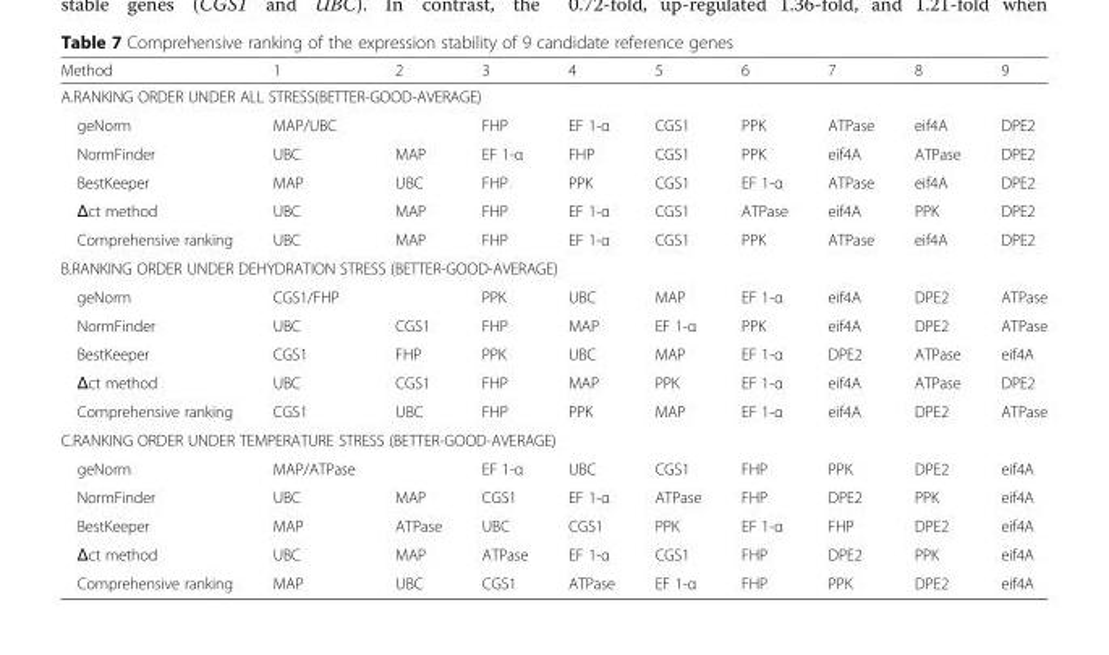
<table><thead><tr><td>Method</td><td>1</td><td>2</td><td>3</td><td>4</td><td>5</td><td>6</td><td>7</td><td>8</td><td>9</td></tr></thead><tbody><tr><td colspan="10">A.RANKING ORDER UNDER ALL STRESS(BETTER-GOOD-AVERAGE)</td></tr><tr><td>geNorm</td><td>MAP/UBC</td><td></td><td>FHP</td><td>EF 1-α</td><td>CGS1</td><td>PPK</td><td>ATPase</td><td>eif4A</td><td>DPE2</td></tr><tr><td>NormFinder</td><td>UBC</td><td>MAP</td><td>EF 1-α</td><td>FHP</td><td>CGS1</td><td>PPK</td><td>eif4A</td><td>ATPase</td><td>DPE2</td></tr><tr><td>BestKeeper</td><td>MAP</td><td>UBC</td><td>FHP</td><td>PPK</td><td>CGS1</td><td>EF 1-α</td><td>ATPase</td><td>eif4A</td><td>DPE2</td></tr><tr><td>Δct method</td><td>UBC</td><td>MAP</td><td>FHP</td><td>EF 1-α</td><td>CGS1</td><td>ATPase</td><td>eif4A</td><td>PPK</td><td>DPE2</td></tr><tr><td>Comprehensive ranking</td><td>UBC</td><td>MAP</td><td>FHP</td><td>EF 1-α</td><td>CGS1</td><td>PPK</td><td>ATPase</td><td>eif4A</td><td>DPE2</td></tr><tr><td colspan="10">B.RANKING ORDER UNDER DEHYDRATION STRESS (BETTER-GOOD-AVERAGE)</td></tr><tr><td>geNorm</td><td>CGS1/FHP</td><td></td><td>PPK</td><td>UBC</td><td>MAP</td><td>EF 1-α</td><td>eif4A</td><td>DPE2</td><td>ATPase</td></tr><tr><td>NormFinder</td><td>UBC</td><td>CGS1</td><td>FHP</td><td>MAP</td><td>EF 1-α</td><td>PPK</td><td>eif4A</td><td>DPE2</td><td>ATPase</td></tr><tr><td>BestKeeper</td><td>CGS1</td><td>FHP</td><td>PPK</td><td>UBC</td><td>MAP</td><td>EF 1-α</td><td>DPE2</td><td>ATPase</td><td>eif4A</td></tr><tr><td>Δct method</td><td>UBC</td><td>CGS1</td><td>FHP</td><td>MAP</td><td>PPK</td><td>EF 1-α</td><td>eif4A</td><td>ATPase</td><td>DPE2</td></tr><tr><td>Comprehensive ranking</td><td>CGS1</td><td>UBC</td><td>FHP</td><td>PPK</td><td>MAP</td><td>EF 1-α</td><td>eif4A</td><td>DPE2</td><td>ATPase</td></tr><tr><td colspan="10">C.RANKING ORDER UNDER TEMPERATURE STRESS (BETTER-GOOD-AVERAGE)</td></tr><tr><td>geNorm</td><td>MAP/ATPase</td><td></td><td>EF 1-α</td><td>UBC</td><td>CGS1</td><td>FHP</td><td>PPK</td><td>DPE2</td><td>eif4A</td></tr><tr><td>NormFinder</td><td>UBC</td><td>MAP</td><td>CGS1</td><td>EF 1-α</td><td>ATPase</td><td>FHP</td><td>DPE2</td><td>PPK</td><td>eif4A</td></tr><tr><td>BestKeeper</td><td>MAP</td><td>ATPase</td><td>UBC</td><td>CGS1</td><td>PPK</td><td>EF 1-α</td><td>FHP</td><td>DPE2</td><td>eif4A</td></tr><tr><td>Δct method</td><td>UBC</td><td>MAP</td><td>ATPase</td><td>EF 1-α</td><td>CGS1</td><td>FHP</td><td>DPE2</td><td>PPK</td><td>eif4A</td></tr><tr><td>Comprehensive ranking</td><td>MAP</td><td>UBC</td><td>CGS1</td><td>ATPase</td><td>EF 1-α</td><td>FHP</td><td>PPK</td><td>DPE2</td><td>eif4A</td></tr></tbody></table>